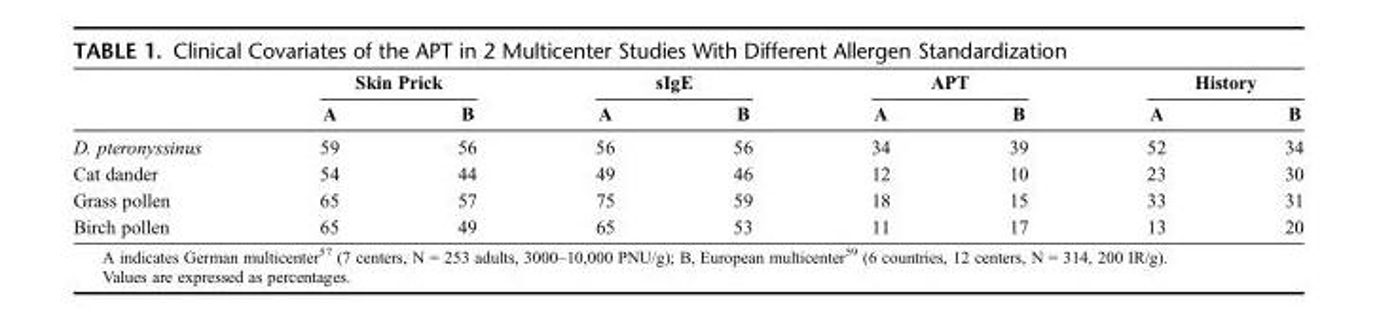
<table><thead><tr><td rowspan="2"></td><td colspan="2">Skin Prick</td><td colspan="2">sIgE</td><td colspan="2">APT</td><td colspan="2">History</td></tr><tr><td>A</td><td>B</td><td>A</td><td>B</td><td>A</td><td>B</td><td>A</td><td>B</td></tr></thead><tbody><tr><td>D. pteronyssinus</td><td>59</td><td>56</td><td>56</td><td>56</td><td>34</td><td>39</td><td>52</td><td>34</td></tr><tr><td>Cat dander</td><td>54</td><td>44</td><td>49</td><td>46</td><td>12</td><td>10</td><td>23</td><td>30</td></tr><tr><td>Grass pollen</td><td>65</td><td>57</td><td>75</td><td>59</td><td>18</td><td>15</td><td>33</td><td>31</td></tr><tr><td>Birch pollen</td><td>65</td><td>49</td><td>65</td><td>53</td><td>11</td><td>17</td><td>13</td><td>20</td></tr></tbody></table>